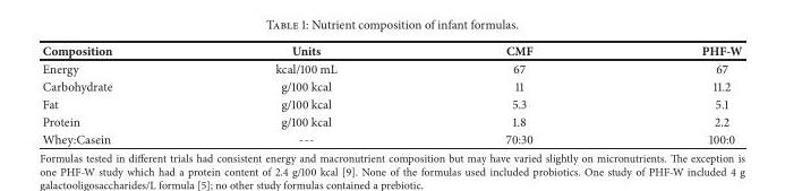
<table><thead><tr><td>Composition</td><td>Units</td><td>CMF</td><td>PHF-W</td></tr></thead><tbody><tr><td>Energy</td><td>kcal/100 mL</td><td>67</td><td>67</td></tr><tr><td>Carbohydrate</td><td>g/100 kcal</td><td>11</td><td>11.2</td></tr><tr><td>Fat</td><td>g/100 kcal</td><td>5.3</td><td>5.1</td></tr><tr><td>Protein</td><td>g/100 kcal</td><td>1.8</td><td>2.2</td></tr><tr><td>Whey:Casein</td><td>---</td><td>70:30</td><td>100:0</td></tr></tbody></table>